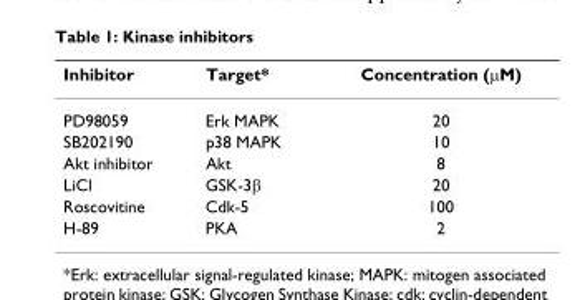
<table><thead><tr><td>Inhibitor</td><td>Target*</td><td>Concentration (μM)</td></tr></thead><tbody><tr><td>PD98059</td><td>Erk MAPK</td><td>20</td></tr><tr><td>SB202190</td><td>p38 MAPK</td><td>10</td></tr><tr><td>Akt inhibitor</td><td>Akt</td><td>8</td></tr><tr><td>LiCl</td><td>GSK-3β</td><td>20</td></tr><tr><td>Roscovitine</td><td>Cdk-5</td><td>100</td></tr><tr><td>H-89</td><td>PKA</td><td>2</td></tr></tbody></table>